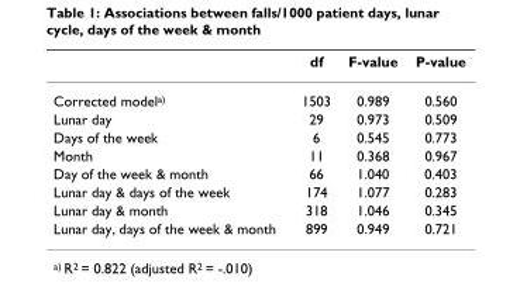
<table><thead><tr><td></td><td>df</td><td>F-value</td><td>P-value</td></tr></thead><tbody><tr><td>Corrected model<sup>a)</sup></td><td>1503</td><td>0.989</td><td>0.560</td></tr><tr><td>Lunar day</td><td>29</td><td>0.973</td><td>0.509</td></tr><tr><td>Days of the week</td><td>6</td><td>0.545</td><td>0.773</td></tr><tr><td>Month</td><td>11</td><td>0.368</td><td>0.967</td></tr><tr><td>Day of the week &amp; month</td><td>66</td><td>1.040</td><td>0.403</td></tr><tr><td>Lunar day &amp; days of the week</td><td>174</td><td>1.077</td><td>0.283</td></tr><tr><td>Lunar day &amp; month</td><td>318</td><td>1.046</td><td>0.345</td></tr><tr><td>Lunar day, days of the week &amp; month</td><td>899</td><td>0.949</td><td>0.721</td></tr></tbody></table>